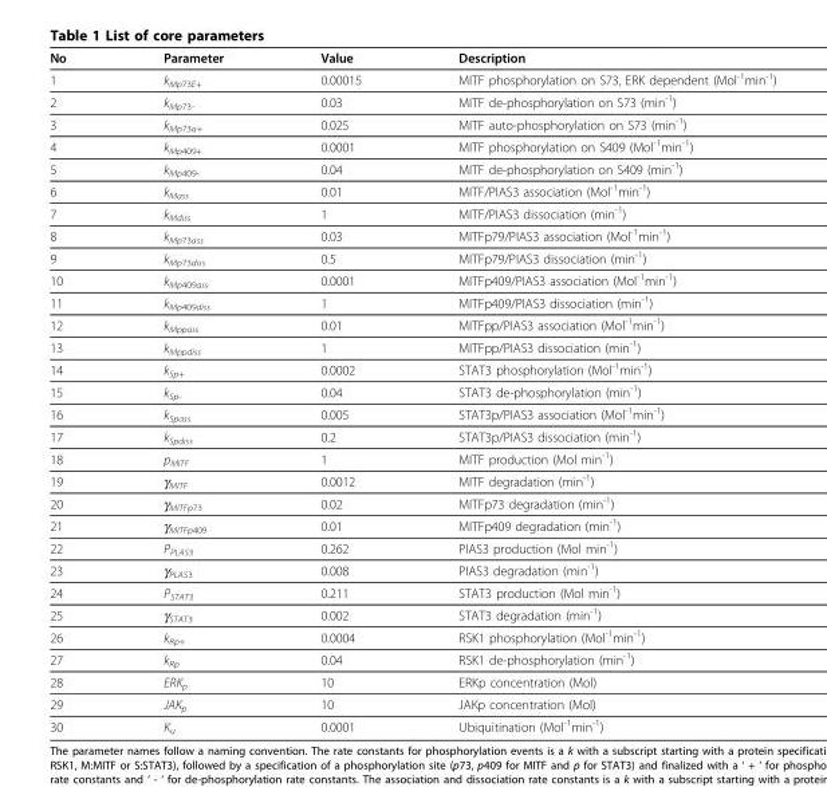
<table><thead><tr><td>No</td><td>Parameter</td><td>Value</td><td>Description</td></tr></thead><tbody><tr><td>1</td><td>k<sub>Mp73E+</sub></td><td>0.00015</td><td>MITF phosphorylation on S73, ERK dependent (Mol<sup>-1</sup>min<sup>-1</sup>)</td></tr><tr><td>2</td><td>k<sub>Mp73-</sub></td><td>0.03</td><td>MITF de-phosphorylation on S73 (min<sup>-1</sup>)</td></tr><tr><td>3</td><td>k<sub>Mp73a+</sub></td><td>0.025</td><td>MITF auto-phosphorylation on S73 (min<sup>-1</sup>)</td></tr><tr><td>4</td><td>k<sub>Mp409+</sub></td><td>0.0001</td><td>MITF phosphorylation on S409 (Mol<sup>-1</sup>min<sup>-1</sup>)</td></tr><tr><td>5</td><td>k<sub>Mp409-</sub></td><td>0.04</td><td>MITF de-phosphorylation on S409 (min<sup>-1</sup>)</td></tr><tr><td>6</td><td>k<sub>Mass</sub></td><td>0.01</td><td>MITF/PIAS3 association (Mol<sup>-1</sup>min<sup>-1</sup>)</td></tr><tr><td>7</td><td>k<sub>Mdiss</sub></td><td>1</td><td>MITF/PIAS3 dissociation (min<sup>-1</sup>)</td></tr><tr><td>8</td><td>k<sub>Mp73ass</sub></td><td>0.03</td><td>MITFp79/PIAS3 association (Mol<sup>-1</sup>min<sup>-1</sup>)</td></tr><tr><td>9</td><td>k<sub>Mp73diss</sub></td><td>0.5</td><td>MITFp79/PIAS3 dissociation (min<sup>-1</sup>)</td></tr><tr><td>10</td><td>k<sub>Mp409ass</sub></td><td>0.0001</td><td>MITFp409/PIAS3 association (Mol<sup>-1</sup>min<sup>-1</sup>)</td></tr><tr><td>11</td><td>k<sub>Mp409diss</sub></td><td>1</td><td>MITFp409/PIAS3 dissociation (min<sup>-1</sup>)</td></tr><tr><td>12</td><td>k<sub>Mppass</sub></td><td>0.01</td><td>MITFpp/PIAS3 association (Mol<sup>-1</sup>min<sup>-1</sup>)</td></tr><tr><td>13</td><td>k<sub>Mppdiss</sub></td><td>1</td><td>MITFpp/PIAS3 dissociation (min<sup>-1</sup>)</td></tr><tr><td>14</td><td>k<sub>Sp+</sub></td><td>0.0002</td><td>STAT3 phosphorylation (Mol<sup>-1</sup>min<sup>-1</sup>)</td></tr><tr><td>15</td><td>k<sub>Sp-</sub></td><td>0.04</td><td>STAT3 de-phosphorylation (min<sup>-1</sup>)</td></tr><tr><td>16</td><td>k<sub>Spass</sub></td><td>0.005</td><td>STAT3p/PIAS3 association (Mol<sup>-1</sup>min<sup>-1</sup>)</td></tr><tr><td>17</td><td>k<sub>Spdiss</sub></td><td>0.2</td><td>STAT3p/PIAS3 dissociation (min<sup>-1</sup>)</td></tr><tr><td>18</td><td>p<sub>MITF</sub></td><td>1</td><td>MITF production (Mol min<sup>-1</sup>)</td></tr><tr><td>19</td><td>γ<sub>MITF</sub></td><td>0.0012</td><td>MITF degradation (min<sup>-1</sup>)</td></tr><tr><td>20</td><td>γ<sub>MITFp73</sub></td><td>0.02</td><td>MITFp73 degradation (min<sup>-1</sup>)</td></tr><tr><td>21</td><td>γ<sub>MITFp409</sub></td><td>0.01</td><td>MITFp409 degradation (min<sup>-1</sup>)</td></tr><tr><td>22</td><td>P<sub>PLAS3</sub></td><td>0.262</td><td>PIAS3 production (Mol min<sup>-1</sup>)</td></tr><tr><td>23</td><td>γ<sub>PLAS3</sub></td><td>0.008</td><td>PIAS3 degradation (min<sup>-1</sup>)</td></tr><tr><td>24</td><td>P<sub>STAT3</sub></td><td>0.211</td><td>STAT3 production (Mol min<sup>-1</sup>)</td></tr><tr><td>25</td><td>γ<sub>STAT3</sub></td><td>0.002</td><td>STAT3 degradation (min<sup>-1</sup>)</td></tr><tr><td>26</td><td>k<sub>Rp+</sub></td><td>0.0004</td><td>RSK1 phosphorylation (Mol<sup>-1</sup>min<sup>-1</sup>)</td></tr><tr><td>27</td><td>k<sub>Rp</sub></td><td>0.04</td><td>RSK1 de-phosphorylation (min<sup>-1</sup>)</td></tr><tr><td>28</td><td>ERK<sub>p</sub></td><td>10</td><td>ERKp concentration (Mol)</td></tr><tr><td>29</td><td>JAK<sub>p</sub></td><td>10</td><td>JAKp concentration (Mol)</td></tr><tr><td>30</td><td>K<sub>u</sub></td><td>0.0001</td><td>Ubiquitination (Mol<sup>-1</sup>min<sup>-1</sup>)</td></tr></tbody></table>